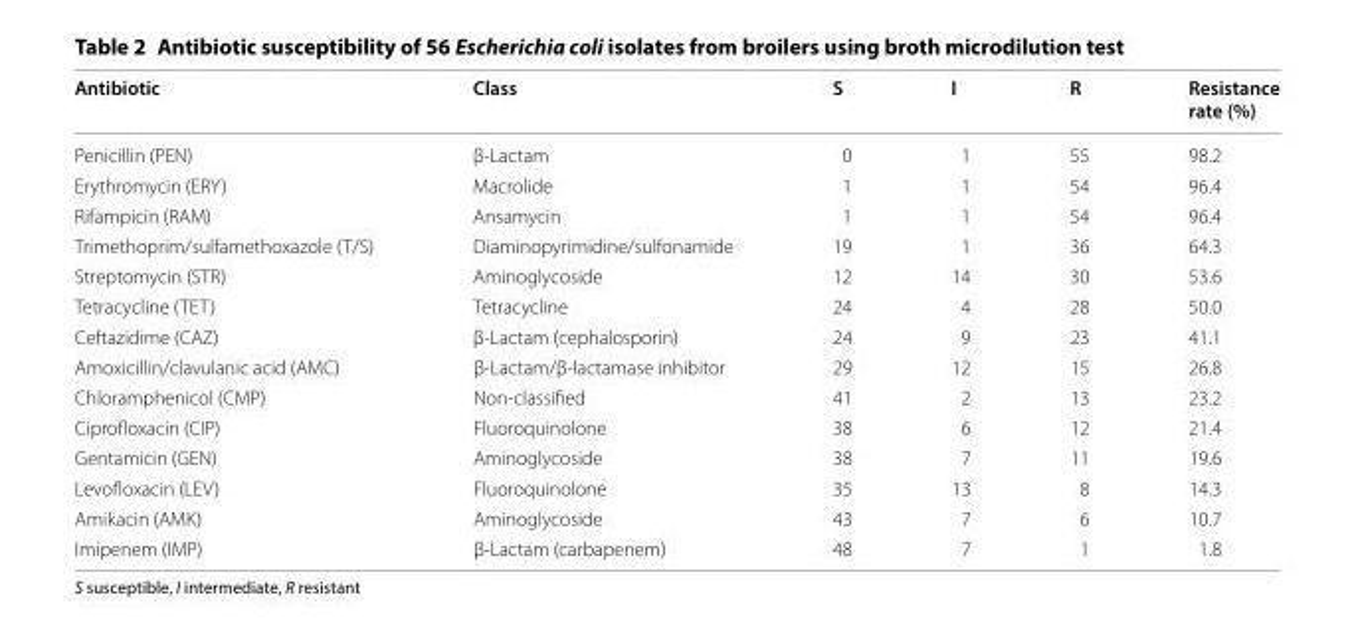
<table><thead><tr><td>Antibiotic</td><td>Class</td><td>S</td><td>I</td><td>R</td><td>Resistance rate (%)</td></tr></thead><tbody><tr><td>Penicillin (PEN)</td><td>β‑Lactam</td><td>0</td><td>1</td><td>55</td><td>98.2</td></tr><tr><td>Erythromycin (ERY)</td><td>Macrolide</td><td>1</td><td>1</td><td>54</td><td>96.4</td></tr><tr><td>Rifampicin (RAM)</td><td>Ansamycin</td><td>1</td><td>1</td><td>54</td><td>96.4</td></tr><tr><td>Trimethoprim/sulfamethoxazole (T/S)</td><td>Diaminopyrimidine/sulfonamide</td><td>19</td><td>1</td><td>36</td><td>64.3</td></tr><tr><td>Streptomycin (STR)</td><td>Aminoglycoside</td><td>12</td><td>14</td><td>30</td><td>53.6</td></tr><tr><td>Tetracycline (TET)</td><td>Tetracycline</td><td>24</td><td>4</td><td>28</td><td>50.0</td></tr><tr><td>Ceftazidime (CAZ)</td><td>β‑Lactam (cephalosporin)</td><td>24</td><td>9</td><td>23</td><td>41.1</td></tr><tr><td>Amoxicillin/clavulanic acid (AMC)</td><td>β‑Lactam/β‑lactamase inhibitor</td><td>29</td><td>12</td><td>15</td><td>26.8</td></tr><tr><td>Chloramphenicol (CMP)</td><td>Non‑classified</td><td>41</td><td>2</td><td>13</td><td>23.2</td></tr><tr><td>Ciprofloxacin (CIP)</td><td>Fluoroquinolone</td><td>38</td><td>6</td><td>12</td><td>21.4</td></tr><tr><td>Gentamicin (GEN)</td><td>Aminoglycoside</td><td>38</td><td>7</td><td>11</td><td>19.6</td></tr><tr><td>Levofloxacin (LEV)</td><td>Fluoroquinolone</td><td>35</td><td>13</td><td>8</td><td>14.3</td></tr><tr><td>Amikacin (AMK)</td><td>Aminoglycoside</td><td>43</td><td>7</td><td>6</td><td>10.7</td></tr><tr><td>Imipenem (IMP)</td><td>β‑Lactam (carbapenem)</td><td>48</td><td>7</td><td>1</td><td>1.8</td></tr></tbody></table>